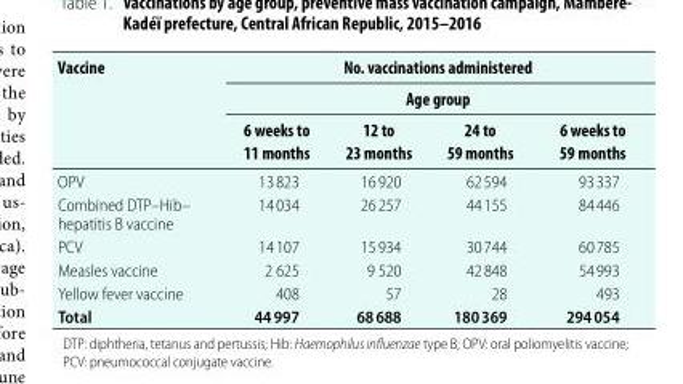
<table><thead><tr><td rowspan="3">Vaccine</td><td rowspan="2" colspan="4">No. vaccinations administered Age group</td></tr><tr></tr><tr><td>6 weeks to 11 months</td><td>12 to 23 months</td><td>24 to 59 months</td><td>6 weeks to 59 months</td></tr></thead><tbody><tr><td>OPV</td><td>13 823</td><td>16 920</td><td>62 594</td><td>93 337</td></tr><tr><td>Combined DTP–Hib– hepatitis B vaccine</td><td>14 034</td><td>26 257</td><td>44 155</td><td>84 446</td></tr><tr><td>PCV</td><td>14 107</td><td>15 934</td><td>30 744</td><td>60 785</td></tr><tr><td>Measles vaccine</td><td>2 625</td><td>9 520</td><td>42 848</td><td>54 993</td></tr><tr><td>Yellow fever vaccine</td><td>408</td><td>57</td><td>28</td><td>493</td></tr><tr><td>Total</td><td>44 997</td><td>68 688</td><td>180 369</td><td>294 054</td></tr></tbody></table>